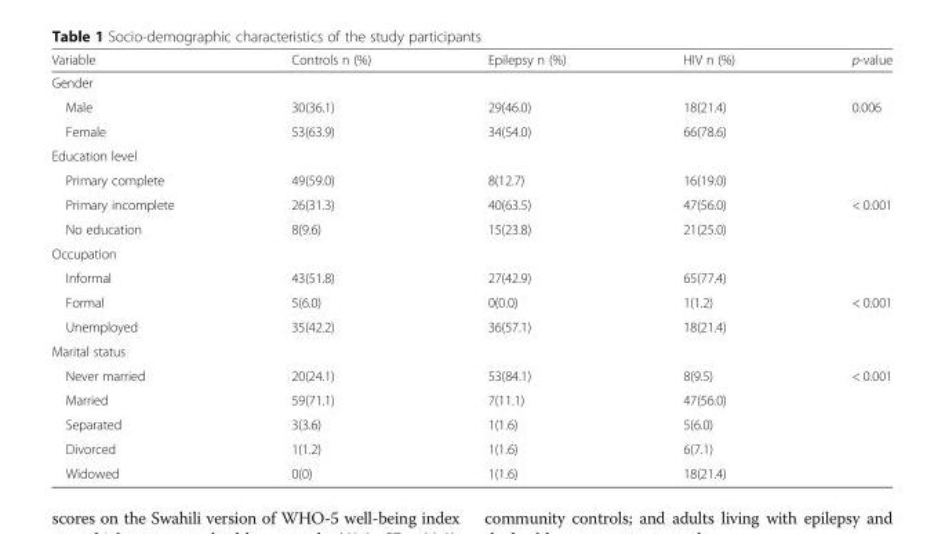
<table><thead><tr><td>Variable</td><td>Controls n (%)</td><td>Epilepsy n (%)</td><td>HIV n (%)</td><td>p-value</td></tr></thead><tbody><tr><td colspan="5">Gender</td></tr><tr><td>Male</td><td>30(36.1)</td><td>29(46.0)</td><td>18(21.4)</td><td>0.006</td></tr><tr><td>Female</td><td>53(63.9)</td><td>34(54.0)</td><td>66(78.6)</td><td></td></tr><tr><td colspan="5">Education level</td></tr><tr><td>Primary complete</td><td>49(59.0)</td><td>8(12.7)</td><td>16(19.0)</td><td></td></tr><tr><td>Primary incomplete</td><td>26(31.3)</td><td>40(63.5)</td><td>47(56.0)</td><td>&lt; 0.001</td></tr><tr><td>No education</td><td>8(9.6)</td><td>15(23.8)</td><td>21(25.0)</td><td></td></tr><tr><td colspan="5">Occupation</td></tr><tr><td>Informal</td><td>43(51.8)</td><td>27(42.9)</td><td>65(77.4)</td><td></td></tr><tr><td>Formal</td><td>5(6.0)</td><td>0(0.0)</td><td>1(1.2)</td><td>&lt; 0.001</td></tr><tr><td>Unemployed</td><td>35(42.2)</td><td>36(57.1)</td><td>18(21.4)</td><td></td></tr><tr><td colspan="5">Marital status</td></tr><tr><td>Never married</td><td>20(24.1)</td><td>53(84.1)</td><td>8(9.5)</td><td>&lt; 0.001</td></tr><tr><td>Married</td><td>59(71.1)</td><td>7(11.1)</td><td>47(56.0)</td><td></td></tr><tr><td>Separated</td><td>3(3.6)</td><td>1(1.6)</td><td>5(6.0)</td><td></td></tr><tr><td>Divorced</td><td>1(1.2)</td><td>1(1.6)</td><td>6(7.1)</td><td></td></tr><tr><td>Widowed</td><td>0(0)</td><td>1(1.6)</td><td>18(21.4)</td><td></td></tr></tbody></table>